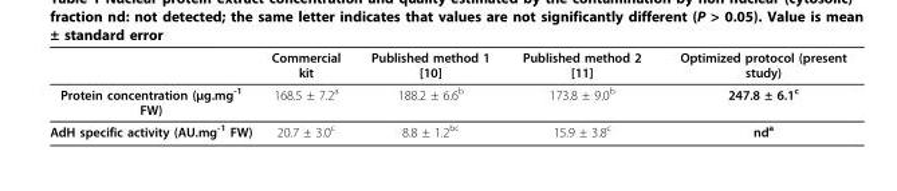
<table><thead><tr><td></td><td>Commercial kit</td><td>Published method 1 [10]</td><td>Published method 2 [11]</td><td>Optimized protocol (present study)</td></tr></thead><tbody><tr><td>Protein concentration (μg.mg<sup>-1</sup> FW)</td><td>168.5 ± 7.2<sup>a</sup></td><td>188.2 ± 6.6<sup>b</sup></td><td>173.8 ± 9.0<sup>b</sup></td><td>247.8 ± 6.1<sup>c</sup></td></tr><tr><td>AdH specific activity (AU.mg<sup>-1</sup> FW)</td><td>20.7 ± 3.0<sup>c</sup></td><td>8.8 ± 1.2<sup>bc</sup></td><td>15.9 ± 3.8<sup>c</sup></td><td>nd<sup>a</sup></td></tr></tbody></table>